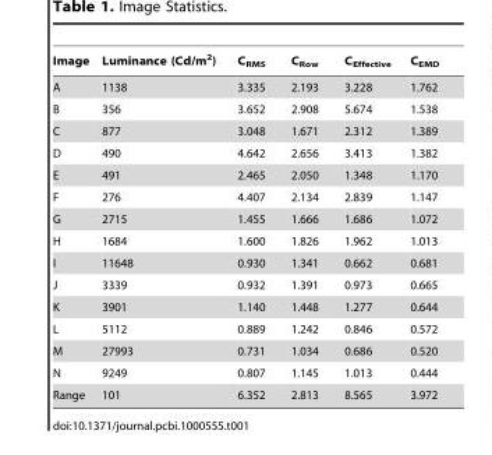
<table><thead><tr><td>Image</td><td>Luminance (Cd/m<sup>2</sup>)</td><td>C<sub>RMS</sub></td><td>C<sub>Row</sub></td><td>C<sub>Effective</sub></td><td>C<sub>EMD</sub></td></tr></thead><tbody><tr><td>A</td><td>1138</td><td>3.335</td><td>2.193</td><td>3.228</td><td>1.762</td></tr><tr><td>B</td><td>356</td><td>3.652</td><td>2.908</td><td>5.674</td><td>1.538</td></tr><tr><td>C</td><td>877</td><td>3.048</td><td>1.671</td><td>2.312</td><td>1.389</td></tr><tr><td>D</td><td>490</td><td>4.642</td><td>2.656</td><td>3.413</td><td>1.382</td></tr><tr><td>E</td><td>491</td><td>2.465</td><td>2.050</td><td>1.348</td><td>1.170</td></tr><tr><td>F</td><td>276</td><td>4.407</td><td>2.134</td><td>2.839</td><td>1.147</td></tr><tr><td>G</td><td>2715</td><td>1.455</td><td>1.666</td><td>1.686</td><td>1.072</td></tr><tr><td>H</td><td>1684</td><td>1.600</td><td>1.826</td><td>1.962</td><td>1.013</td></tr><tr><td>I</td><td>11648</td><td>0.930</td><td>1.341</td><td>0.662</td><td>0.681</td></tr><tr><td>J</td><td>3339</td><td>0.932</td><td>1.391</td><td>0.973</td><td>0.665</td></tr><tr><td>K</td><td>3901</td><td>1.140</td><td>1.448</td><td>1.277</td><td>0.644</td></tr><tr><td>L</td><td>5112</td><td>0.889</td><td>1.242</td><td>0.846</td><td>0.572</td></tr><tr><td>M</td><td>27993</td><td>0.731</td><td>1.034</td><td>0.686</td><td>0.520</td></tr><tr><td>N</td><td>9249</td><td>0.807</td><td>1.145</td><td>1.013</td><td>0.444</td></tr><tr><td>Range</td><td>101</td><td>6.352</td><td>2.813</td><td>8.565</td><td>3.972</td></tr></tbody></table>